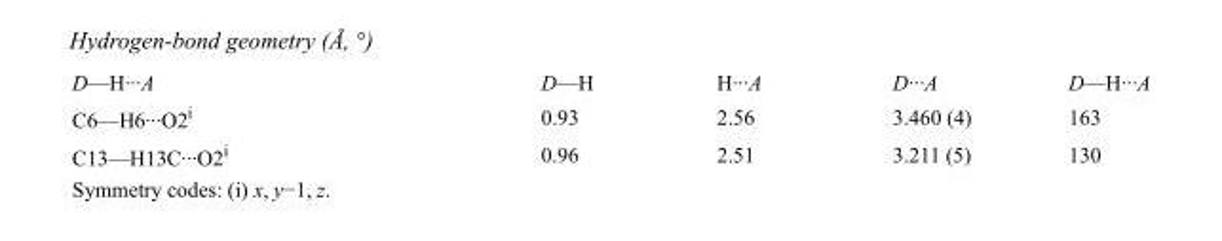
<table><tbody><tr><td>D—H···A</td><td>D—H</td><td>H···A</td><td>D···A</td><td>D—H···A</td></tr><tr><td>C6—H6···O2<sup>i</sup></td><td>0.93</td><td>2.56</td><td>3.460 (4)</td><td>163</td></tr><tr><td>C13—H13C···O2<sup>i</sup></td><td>0.96</td><td>2.51</td><td>3.211 (5)</td><td>130</td></tr></tbody></table>